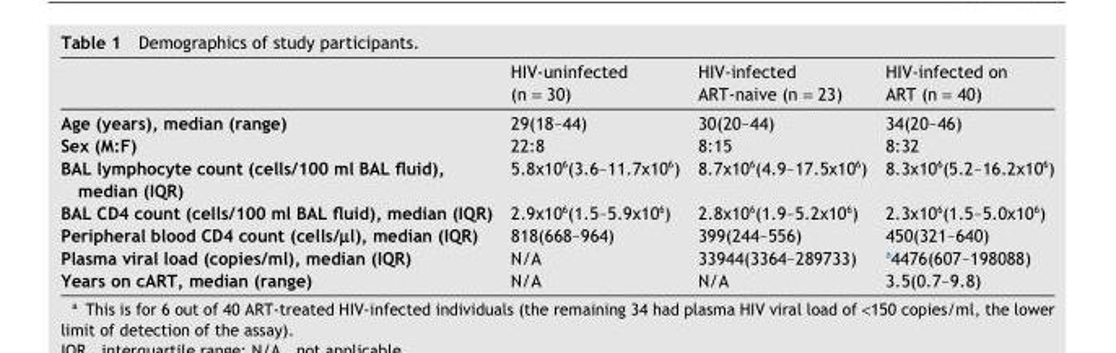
<table><thead><tr><td></td><td>HIV-uninfected (n = 30)</td><td>HIV-infected ART-naive (n = 23)</td><td>HIV-infected on ART (n = 40)</td></tr></thead><tbody><tr><td>Age (years), median (range)</td><td>29(18–44)</td><td>30(20–44)</td><td>34(20–46)</td></tr><tr><td>Sex (M:F)</td><td>22:8</td><td>8:15</td><td>8:32</td></tr><tr><td>BAL lymphocyte count (cells/100 ml BAL fluid), median (IQR)</td><td>5.8x10<sup>6</sup>(3.6–11.7x10<sup>6</sup>)</td><td>8.7x10<sup>6</sup>(4.9–17.5x10<sup>6</sup>)</td><td>8.3x10<sup>6</sup>(5.2–16.2x10<sup>6</sup>)</td></tr><tr><td>BAL CD4 count (cells/100 ml BAL fluid), median (IQR)</td><td>2.9x10<sup>6</sup>(1.5–5.9x10<sup>6</sup>)</td><td>2.8x10<sup>6</sup>(1.9–5.2x10<sup>6</sup>)</td><td>2.3x10<sup>6</sup>(1.5–5.0x10<sup>6</sup>)</td></tr><tr><td>Peripheral blood CD4 count (cells/µl), median (IQR)</td><td>818(668–964)</td><td>399(244–556)</td><td>450(321–640)</td></tr><tr><td>Plasma viral load (copies/ml), median (IQR)</td><td>N/A</td><td>33944(3364–289733)</td><td>a4476(607–198088)</td></tr><tr><td>Years on cART, median (range)</td><td>N/A</td><td>N/A</td><td>3.5(0.7–9.8)</td></tr></tbody></table>